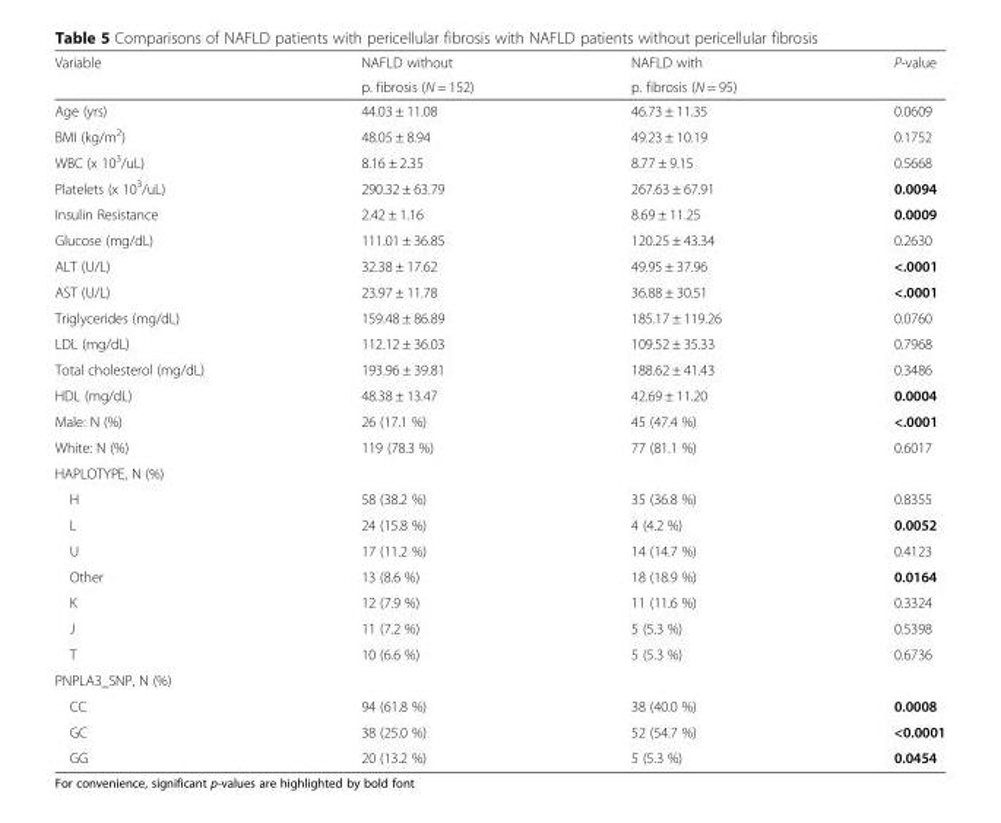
<table><thead><tr><td rowspan="2">Variable</td><td rowspan="2">NAFLD without p. fibrosis (N = 152)</td><td rowspan="2">NAFLD with p. fibrosis (N = 95)</td><td rowspan="2">P-value</td></tr><tr></tr></thead><tbody><tr><td>Age (yrs)</td><td>44.03 ± 11.08</td><td>46.73 ± 11.35</td><td>0.0609</td></tr><tr><td>BMI (kg/m<sup>2</sup>)</td><td>48.05 ± 8.94</td><td>49.23 ± 10.19</td><td>0.1752</td></tr><tr><td>WBC (x 10<sup>3</sup>/uL)</td><td>8.16 ± 2.35</td><td>8.77 ± 9.15</td><td>0.5668</td></tr><tr><td>Platelets (x 10<sup>3</sup>/uL)</td><td>290.32 ± 63.79</td><td>267.63 ± 67.91</td><td>0.0094</td></tr><tr><td>Insulin Resistance</td><td>2.42 ± 1.16</td><td>8.69 ± 11.25</td><td>0.0009</td></tr><tr><td>Glucose (mg/dL)</td><td>111.01 ± 36.85</td><td>120.25 ± 43.34</td><td>0.2630</td></tr><tr><td>ALT (U/L)</td><td>32.38 ± 17.62</td><td>49.95 ± 37.96</td><td>&lt;.0001</td></tr><tr><td>AST (U/L)</td><td>23.97 ± 11.78</td><td>36.88 ± 30.51</td><td>&lt;.0001</td></tr><tr><td>Triglycerides (mg/dL)</td><td>159.48 ± 86.89</td><td>185.17 ± 119.26</td><td>0.0760</td></tr><tr><td>LDL (mg/dL)</td><td>112.12 ± 36.03</td><td>109.52 ± 35.33</td><td>0.7968</td></tr><tr><td>Total cholesterol (mg/dL)</td><td>193.96 ± 39.81</td><td>188.62 ± 41.43</td><td>0.3486</td></tr><tr><td>HDL (mg/dL)</td><td>48.38 ± 13.47</td><td>42.69 ± 11.20</td><td>0.0004</td></tr><tr><td>Male: N (%)</td><td>26 (17.1 %)</td><td>45 (47.4 %)</td><td>&lt;.0001</td></tr><tr><td>White: N (%)</td><td>119 (78.3 %)</td><td>77 (81.1 %)</td><td>0.6017</td></tr><tr><td colspan="4">HAPLOTYPE, N (%)</td></tr><tr><td>H</td><td>58 (38.2 %)</td><td>35 (36.8 %)</td><td>0.8355</td></tr><tr><td>L</td><td>24 (15.8 %)</td><td>4 (4.2 %)</td><td>0.0052</td></tr><tr><td>U</td><td>17 (11.2 %)</td><td>14 (14.7 %)</td><td>0.4123</td></tr><tr><td>Other</td><td>13 (8.6 %)</td><td>18 (18.9 %)</td><td>0.0164</td></tr><tr><td>K</td><td>12 (7.9 %)</td><td>11 (11.6 %)</td><td>0.3324</td></tr><tr><td>J</td><td>11 (7.2 %)</td><td>5 (5.3 %)</td><td>0.5398</td></tr><tr><td>T</td><td>10 (6.6 %)</td><td>5 (5.3 %)</td><td>0.6736</td></tr><tr><td colspan="4">PNPLA3_SNP, N (%)</td></tr><tr><td>CC</td><td>94 (61.8 %)</td><td>38 (40.0 %)</td><td>0.0008</td></tr><tr><td>GC</td><td>38 (25.0 %)</td><td>52 (54.7 %)</td><td>&lt;0.0001</td></tr><tr><td>GG</td><td>20 (13.2 %)</td><td>5 (5.3 %)</td><td>0.0454</td></tr></tbody></table>